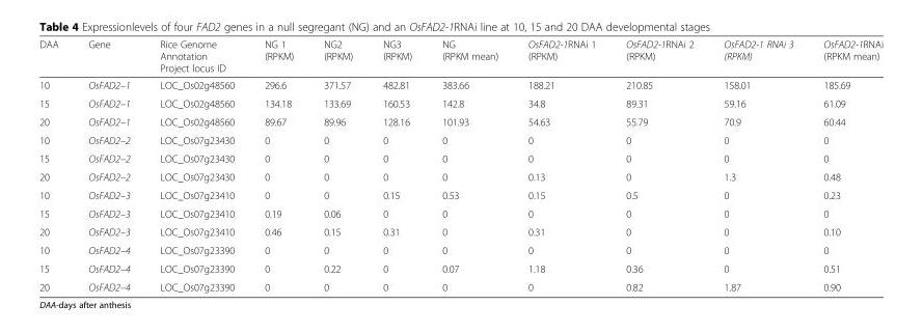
<table><thead><tr><td>DAA</td><td>Gene</td><td>Rice Genome Annotation Project locus ID</td><td>NG 1 (RPKM)</td><td>NG2 (RPKM)</td><td>NG3 (RPKM)</td><td>NG (RPKM mean)</td><td>OsFAD2-1RNAi 1 (RPKM)</td><td>OsFAD2-1RNAi 2 (RPKM)</td><td>OsFAD2-1 RNAi 3 (RPKM)</td><td>OsFAD2-1RNAi (RPKM mean)</td></tr></thead><tbody><tr><td>10</td><td>OsFAD2–1</td><td>LOC_Os02g48560</td><td>296.6</td><td>371.57</td><td>482.81</td><td>383.66</td><td>188.21</td><td>210.85</td><td>158.01</td><td>185.69</td></tr><tr><td>15</td><td>OsFAD2–1</td><td>LOC_Os02g48560</td><td>134.18</td><td>133.69</td><td>160.53</td><td>142.8</td><td>34.8</td><td>89.31</td><td>59.16</td><td>61.09</td></tr><tr><td>20</td><td>OsFAD2–1</td><td>LOC_Os02g48560</td><td>89.67</td><td>89.96</td><td>128.16</td><td>101.93</td><td>54.63</td><td>55.79</td><td>70.9</td><td>60.44</td></tr><tr><td>10</td><td>OsFAD2–2</td><td>LOC_Os07g23430</td><td>0</td><td>0</td><td>0</td><td>0</td><td>0</td><td>0</td><td>0</td><td>0</td></tr><tr><td>15</td><td>OsFAD2–2</td><td>LOC_Os07g23430</td><td>0</td><td>0</td><td>0</td><td>0</td><td>0</td><td>0</td><td>0</td><td>0</td></tr><tr><td>20</td><td>OsFAD2–2</td><td>LOC_Os07g23430</td><td>0</td><td>0</td><td>0</td><td>0</td><td>0.13</td><td>0</td><td>1.3</td><td>0.48</td></tr><tr><td>10</td><td>OsFAD2–3</td><td>LOC_Os07g23410</td><td>0</td><td>0</td><td>0.15</td><td>0.53</td><td>0.15</td><td>0.5</td><td>0</td><td>0.23</td></tr><tr><td>15</td><td>OsFAD2–3</td><td>LOC_Os07g23410</td><td>0.19</td><td>0.06</td><td>0</td><td>0</td><td>0</td><td>0</td><td>0</td><td>0</td></tr><tr><td>20</td><td>OsFAD2–3</td><td>LOC_Os07g23410</td><td>0.46</td><td>0.15</td><td>0.31</td><td>0</td><td>0.31</td><td>0</td><td>0</td><td>0.10</td></tr><tr><td>10</td><td>OsFAD2–4</td><td>LOC_Os07g23390</td><td>0</td><td>0</td><td>0</td><td>0</td><td>0</td><td>0</td><td>0</td><td>0</td></tr><tr><td>15</td><td>OsFAD2–4</td><td>LOC_Os07g23390</td><td>0</td><td>0.22</td><td>0</td><td>0.07</td><td>1.18</td><td>0.36</td><td>0</td><td>0.51</td></tr><tr><td>20</td><td>OsFAD2–4</td><td>LOC_Os07g23390</td><td>0</td><td>0</td><td>0</td><td>0</td><td>0</td><td>0.82</td><td>1.87</td><td>0.90</td></tr></tbody></table>